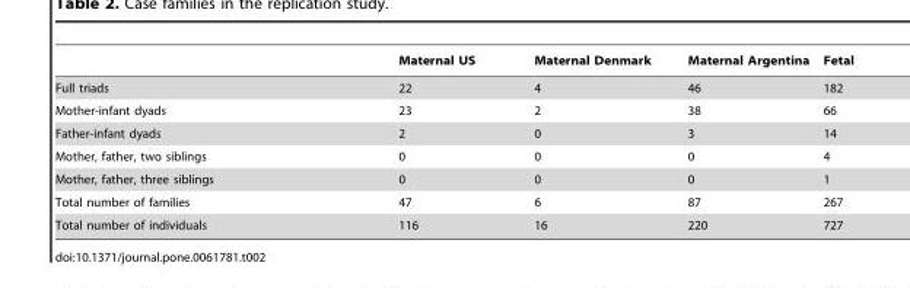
<table><thead><tr><td></td><td>Maternal US</td><td>Maternal Denmark</td><td>Maternal Argentina</td><td>Fetal</td></tr></thead><tbody><tr><td>Full triads</td><td>22</td><td>4</td><td>46</td><td>182</td></tr><tr><td>Mother-infant dyads</td><td>23</td><td>2</td><td>38</td><td>66</td></tr><tr><td>Father-infant dyads</td><td>2</td><td>0</td><td>3</td><td>14</td></tr><tr><td>Mother, father, two siblings</td><td>0</td><td>0</td><td>0</td><td>4</td></tr><tr><td>Mother, father, three siblings</td><td>0</td><td>0</td><td>0</td><td>1</td></tr><tr><td>Total number of families</td><td>47</td><td>6</td><td>87</td><td>267</td></tr><tr><td>Total number of individuals</td><td>116</td><td>16</td><td>220</td><td>727</td></tr></tbody></table>